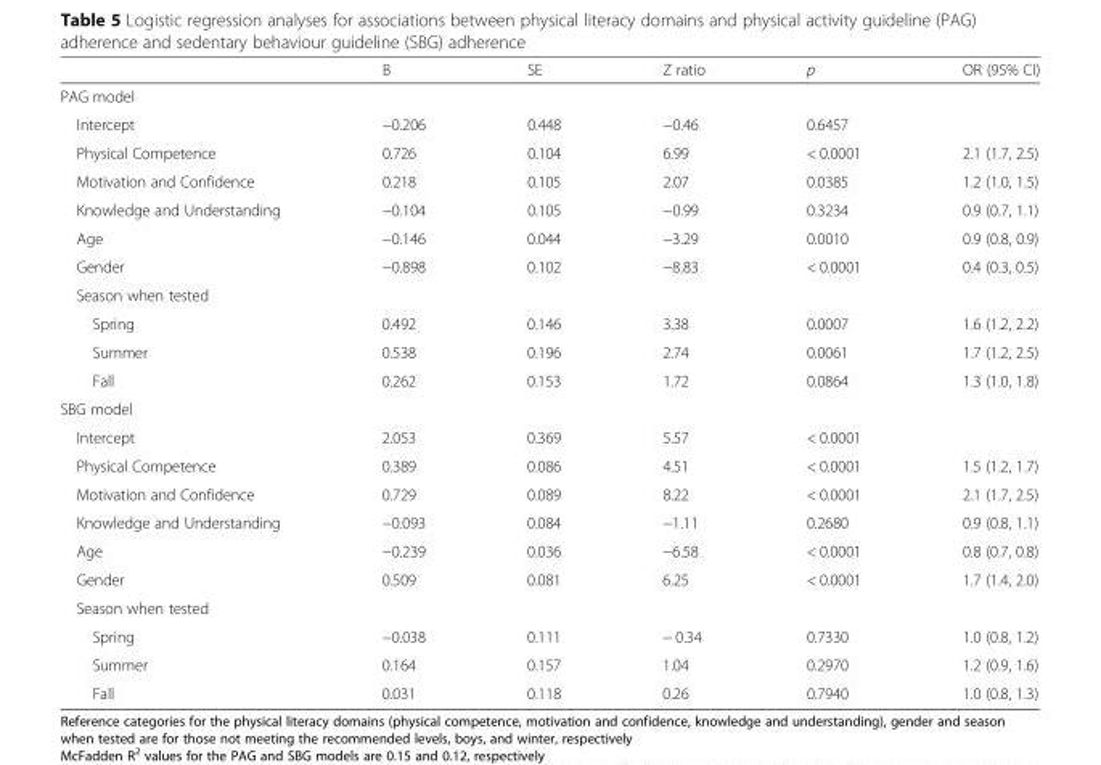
<table><thead><tr><td></td><td>B</td><td>SE</td><td>Z ratio</td><td>p</td><td>OR (95% CI)</td></tr></thead><tbody><tr><td colspan="6">PAG model</td></tr><tr><td>Intercept</td><td>−0.206</td><td>0.448</td><td>−0.46</td><td>0.6457</td><td></td></tr><tr><td>Physical Competence</td><td>0.726</td><td>0.104</td><td>6.99</td><td>&lt; 0.0001</td><td>2.1 (1.7, 2.5)</td></tr><tr><td>Motivation and Confidence</td><td>0.218</td><td>0.105</td><td>2.07</td><td>0.0385</td><td>1.2 (1.0, 1.5)</td></tr><tr><td>Knowledge and Understanding</td><td>−0.104</td><td>0.105</td><td>−0.99</td><td>0.3234</td><td>0.9 (0.7, 1.1)</td></tr><tr><td>Age</td><td>−0.146</td><td>0.044</td><td>−3.29</td><td>0.0010</td><td>0.9 (0.8, 0.9)</td></tr><tr><td>Gender</td><td>−0.898</td><td>0.102</td><td>−8.83</td><td>&lt; 0.0001</td><td>0.4 (0.3, 0.5)</td></tr><tr><td colspan="6">Season when tested</td></tr><tr><td>Spring</td><td>0.492</td><td>0.146</td><td>3.38</td><td>0.0007</td><td>1.6 (1.2, 2.2)</td></tr><tr><td>Summer</td><td>0.538</td><td>0.196</td><td>2.74</td><td>0.0061</td><td>1.7 (1.2, 2.5)</td></tr><tr><td>Fall</td><td>0.262</td><td>0.153</td><td>1.72</td><td>0.0864</td><td>1.3 (1.0, 1.8)</td></tr><tr><td colspan="6">SBG model</td></tr><tr><td>Intercept</td><td>2.053</td><td>0.369</td><td>5.57</td><td>&lt; 0.0001</td><td></td></tr><tr><td>Physical Competence</td><td>0.389</td><td>0.086</td><td>4.51</td><td>&lt; 0.0001</td><td>1.5 (1.2, 1.7)</td></tr><tr><td>Motivation and Confidence</td><td>0.729</td><td>0.089</td><td>8.22</td><td>&lt; 0.0001</td><td>2.1 (1.7, 2.5)</td></tr><tr><td>Knowledge and Understanding</td><td>−0.093</td><td>0.084</td><td>−1.11</td><td>0.2680</td><td>0.9 (0.8, 1.1)</td></tr><tr><td>Age</td><td>−0.239</td><td>0.036</td><td>−6.58</td><td>&lt; 0.0001</td><td>0.8 (0.7, 0.8)</td></tr><tr><td>Gender</td><td>0.509</td><td>0.081</td><td>6.25</td><td>&lt; 0.0001</td><td>1.7 (1.4, 2.0)</td></tr><tr><td colspan="6">Season when tested</td></tr><tr><td>Spring</td><td>−0.038</td><td>0.111</td><td>− 0.34</td><td>0.7330</td><td>1.0 (0.8, 1.2)</td></tr><tr><td>Summer</td><td>0.164</td><td>0.157</td><td>1.04</td><td>0.2970</td><td>1.2 (0.9, 1.6)</td></tr><tr><td>Fall</td><td>0.031</td><td>0.118</td><td>0.26</td><td>0.7940</td><td>1.0 (0.8, 1.3)</td></tr></tbody></table>